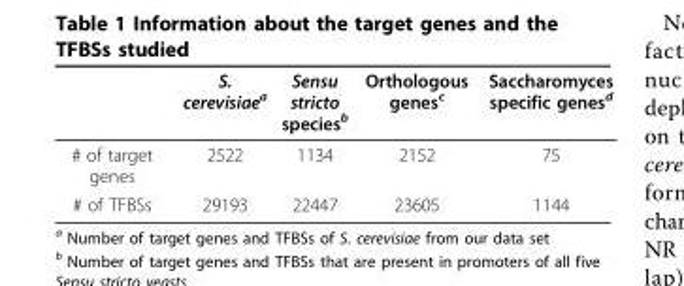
<table><thead><tr><td></td><td>S. cerevisiae<sup>a</sup></td><td>Sensu stricto species<sup>b</sup></td><td>Orthologous genes<sup>c</sup></td><td>Saccharomyces specific genes<sup>d</sup></td></tr></thead><tbody><tr><td># of target genes</td><td>2522</td><td>1134</td><td>2152</td><td>75</td></tr><tr><td># of TFBSs</td><td>29193</td><td>22447</td><td>23605</td><td>1144</td></tr></tbody></table>